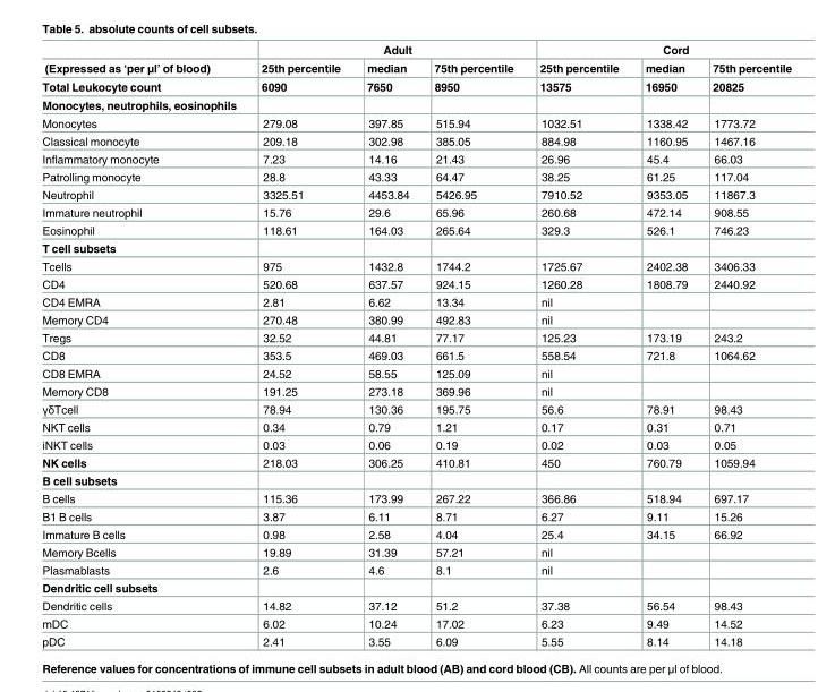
<table><thead><tr><td rowspan="3">(Expressed as ‘per μl’ of blood) Total Leukocyte count</td><td colspan="3">Adult</td><td colspan="3">Cord</td></tr><tr><td rowspan="2">25th percentile 6090</td><td rowspan="2">median 7650</td><td rowspan="2">75th percentile 8950</td><td rowspan="2">25th percentile 13575</td><td rowspan="2">median 16950</td><td rowspan="2">75th percentile 20825</td></tr><tr></tr></thead><tbody><tr><td colspan="7">Monocytes, neutrophils, eosinophils</td></tr><tr><td>Monocytes</td><td>279.08</td><td>397.85</td><td>515.94</td><td>1032.51</td><td>1338.42</td><td>1773.72</td></tr><tr><td>Classical monocyte</td><td>209.18</td><td>302.98</td><td>385.05</td><td>884.98</td><td>1160.95</td><td>1467.16</td></tr><tr><td>Inflammatory monocyte</td><td>7.23</td><td>14.16</td><td>21.43</td><td>26.96</td><td>45.4</td><td>66.03</td></tr><tr><td>Patrolling monocyte</td><td>28.8</td><td>43.33</td><td>64.47</td><td>38.25</td><td>61.25</td><td>117.04</td></tr><tr><td>Neutrophil</td><td>3325.51</td><td>4453.84</td><td>5426.95</td><td>7910.52</td><td>9353.05</td><td>11867.3</td></tr><tr><td>Immature neutrophil</td><td>15.76</td><td>29.6</td><td>65.96</td><td>260.68</td><td>472.14</td><td>908.55</td></tr><tr><td>Eosinophil</td><td>118.61</td><td>164.03</td><td>265.64</td><td>329.3</td><td>526.1</td><td>746.23</td></tr><tr><td colspan="7">T cell subsets</td></tr><tr><td>Tcells</td><td>975</td><td>1432.8</td><td>1744.2</td><td>1725.67</td><td>2402.38</td><td>3406.33</td></tr><tr><td>CD4</td><td>520.68</td><td>637.57</td><td>924.15</td><td>1260.28</td><td>1808.79</td><td>2440.92</td></tr><tr><td>CD4 EMRA</td><td>2.81</td><td>6.62</td><td>13.34</td><td>nil</td><td></td><td></td></tr><tr><td>Memory CD4</td><td>270.48</td><td>380.99</td><td>492.83</td><td>nil</td><td></td><td></td></tr><tr><td>Tregs</td><td>32.52</td><td>44.81</td><td>77.17</td><td>125.23</td><td>173.19</td><td>243.2</td></tr><tr><td>CD8</td><td>353.5</td><td>469.03</td><td>661.5</td><td>558.54</td><td>721.8</td><td>1064.62</td></tr><tr><td>CD8 EMRA</td><td>24.52</td><td>58.55</td><td>125.09</td><td>nil</td><td></td><td></td></tr><tr><td>Memory CD8</td><td>191.25</td><td>273.18</td><td>369.96</td><td>nil</td><td></td><td></td></tr><tr><td>γδTcell</td><td>78.94</td><td>130.36</td><td>195.75</td><td>56.6</td><td>78.91</td><td>98.43</td></tr><tr><td>NKT cells</td><td>0.34</td><td>0.79</td><td>1.21</td><td>0.17</td><td>0.31</td><td>0.71</td></tr><tr><td>iNKT cells</td><td>0.03</td><td>0.06</td><td>0.19</td><td>0.02</td><td>0.03</td><td>0.05</td></tr><tr><td>NK cells</td><td>218.03</td><td>306.25</td><td>410.81</td><td>450</td><td>760.79</td><td>1059.94</td></tr><tr><td colspan="7">B cell subsets</td></tr><tr><td>B cells</td><td>115.36</td><td>173.99</td><td>267.22</td><td>366.86</td><td>518.94</td><td>697.17</td></tr><tr><td>B1 B cells</td><td>3.87</td><td>6.11</td><td>8.71</td><td>6.27</td><td>9.11</td><td>15.26</td></tr><tr><td>Immature B cells</td><td>0.98</td><td>2.58</td><td>4.04</td><td>25.4</td><td>34.15</td><td>66.92</td></tr><tr><td>Memory Bcells</td><td>19.89</td><td>31.39</td><td>57.21</td><td>nil</td><td></td><td></td></tr><tr><td>Plasmablasts</td><td>2.6</td><td>4.6</td><td>8.1</td><td>nil</td><td></td><td></td></tr><tr><td colspan="7">Dendritic cell subsets</td></tr><tr><td>Dendritic cells</td><td>14.82</td><td>37.12</td><td>51.2</td><td>37.38</td><td>56.54</td><td>98.43</td></tr><tr><td>mDC</td><td>6.02</td><td>10.24</td><td>17.02</td><td>6.23</td><td>9.49</td><td>14.52</td></tr><tr><td>pDC</td><td>2.41</td><td>3.55</td><td>6.09</td><td>5.55</td><td>8.14</td><td>14.18</td></tr></tbody></table>